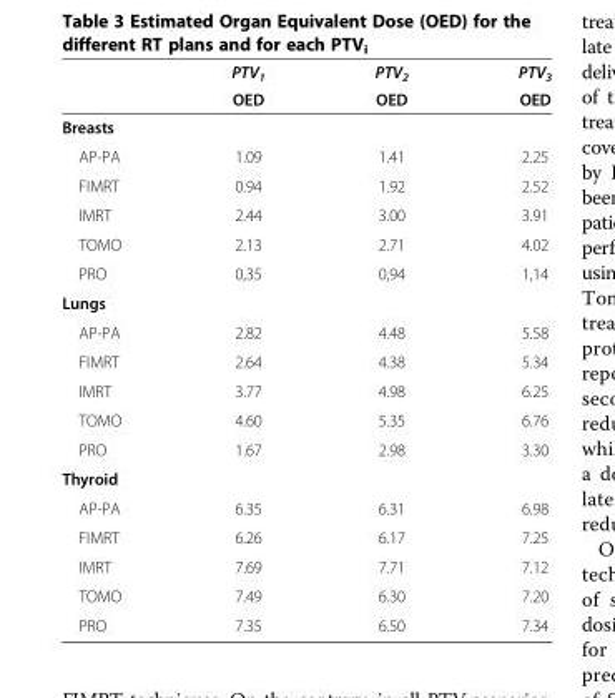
<table><thead><tr><td rowspan="2"></td><td rowspan="2">PTV<sub>1</sub> OED</td><td rowspan="2">PTV<sub>2</sub> OED</td><td rowspan="2">PTV<sub>3</sub> OED</td></tr><tr></tr></thead><tbody><tr><td colspan="4">Breasts</td></tr><tr><td>AP-PA</td><td>1.09</td><td>1.41</td><td>2.25</td></tr><tr><td>FIMRT</td><td>0.94</td><td>1.92</td><td>2.52</td></tr><tr><td>IMRT</td><td>2.44</td><td>3.00</td><td>3.91</td></tr><tr><td>TOMO</td><td>2.13</td><td>2.71</td><td>4.02</td></tr><tr><td>PRO</td><td>0,35</td><td>0,94</td><td>1,14</td></tr><tr><td colspan="4">Lungs</td></tr><tr><td>AP-PA</td><td>2.82</td><td>4.48</td><td>5.58</td></tr><tr><td>FIMRT</td><td>2.64</td><td>4.38</td><td>5.34</td></tr><tr><td>IMRT</td><td>3.77</td><td>4.98</td><td>6.25</td></tr><tr><td>TOMO</td><td>4.60</td><td>5.35</td><td>6.76</td></tr><tr><td>PRO</td><td>1.67</td><td>2.98</td><td>3.30</td></tr><tr><td colspan="4">Thyroid</td></tr><tr><td>AP-PA</td><td>6.35</td><td>6.31</td><td>6.98</td></tr><tr><td>FIMRT</td><td>6.26</td><td>6.17</td><td>7.25</td></tr><tr><td>IMRT</td><td>7.69</td><td>7.71</td><td>7.12</td></tr><tr><td>TOMO</td><td>7.49</td><td>6.30</td><td>7.20</td></tr><tr><td>PRO</td><td>7.35</td><td>6.50</td><td>7.34</td></tr></tbody></table>